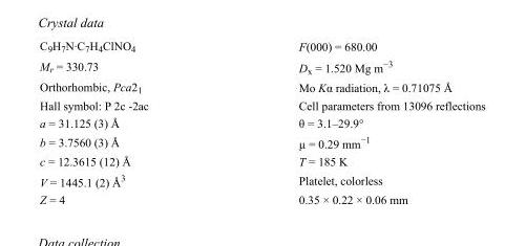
<table><tbody><tr><td>C<sub>9</sub>H<sub>7</sub>N·C<sub>7</sub>H<sub>4</sub>ClNO<sub>4</sub></td><td>F(000) = 680.00</td></tr><tr><td>M<sub>r</sub> = 330.73</td><td>D<sub>x</sub> = 1.520 Mg m<sup>−3</sup></td></tr><tr><td>Orthorhombic, Pca2<sub>1</sub></td><td>Mo Kα radiation, λ = 0.71075 Å</td></tr><tr><td>Hall symbol: P 2c -2ac</td><td>Cell parameters from 13096 reflections</td></tr><tr><td>a = 31.125 (3) Å</td><td>θ = 3.1–29.9°</td></tr><tr><td>b = 3.7560 (3) Å</td><td>µ = 0.29 mm<sup>−1</sup></td></tr><tr><td>c = 12.3615 (12) Å</td><td>T = 185 K</td></tr><tr><td>V = 1445.1 (2) Å<sup>3</sup></td><td>Platelet, colorless</td></tr><tr><td>Z = 4</td><td>0.35 × 0.22 × 0.06 mm</td></tr></tbody></table>